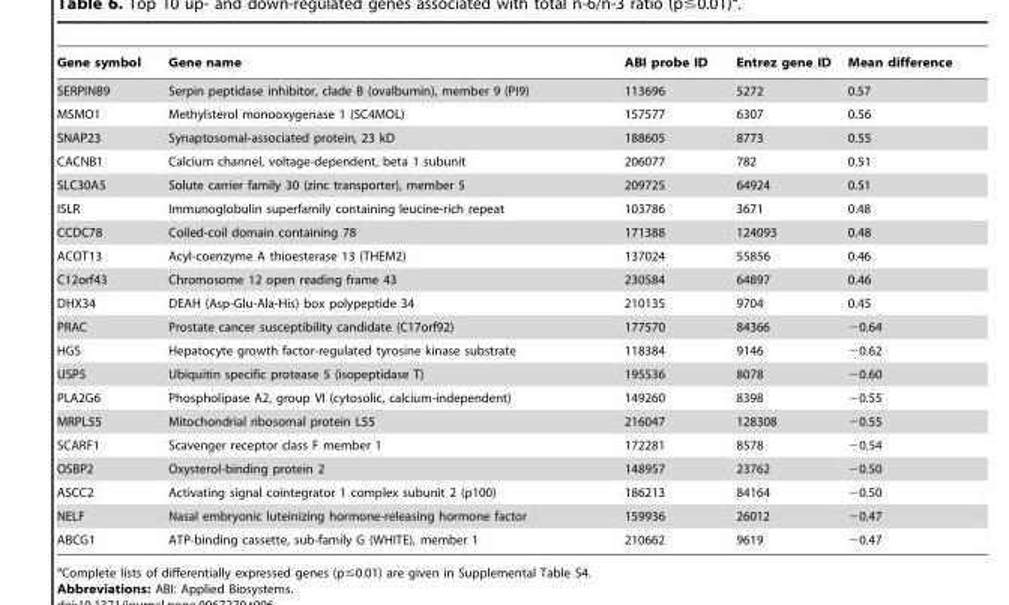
<table><thead><tr><td>Gene symbol</td><td>Gene name</td><td>ABI probe ID</td><td>Entrez gene ID</td><td>Mean difference</td></tr></thead><tbody><tr><td>SERPINB9</td><td>Serpin peptidase inhibitor, clade B (ovalbumin), member 9 (PI9)</td><td>113696</td><td>5272</td><td>0.57</td></tr><tr><td>MSMO1</td><td>Methylsterol monooxygenase 1 (SC4MOL)</td><td>157577</td><td>6307</td><td>0.56</td></tr><tr><td>SNAP23</td><td>Synaptosomal-associated protein, 23 kD</td><td>188605</td><td>8773</td><td>0.55</td></tr><tr><td>CACNB1</td><td>Calcium channel, voltage-dependent, beta 1 subunit</td><td>206077</td><td>782</td><td>0.51</td></tr><tr><td>SLC30A5</td><td>Solute carrier family 30 (zinc transporter), member 5</td><td>209725</td><td>64924</td><td>0.51</td></tr><tr><td>ISLR</td><td>Immunoglobulin superfamily containing leucine-rich repeat</td><td>103786</td><td>3671</td><td>0.48</td></tr><tr><td>CCDC78</td><td>Coiled-coil domain containing 78</td><td>171388</td><td>124093</td><td>0.48</td></tr><tr><td>ACOT13</td><td>Acyl-coenzyme A thioesterase 13 (THEM2)</td><td>137024</td><td>55856</td><td>0.46</td></tr><tr><td>C12orf43</td><td>Chromosome 12 open reading frame 43</td><td>230584</td><td>64897</td><td>0.46</td></tr><tr><td>DHX34</td><td>DEAH (Asp-Glu-Ala-His) box polypeptide 34</td><td>210135</td><td>9704</td><td>0.45</td></tr><tr><td>PRAC</td><td>Prostate cancer susceptibility candidate (C17orf92)</td><td>177570</td><td>84366</td><td>−0.64</td></tr><tr><td>HGS</td><td>Hepatocyte growth factor-regulated tyrosine kinase substrate</td><td>118384</td><td>9146</td><td>−0.62</td></tr><tr><td>USP5</td><td>Ubiquitin specific protease 5 (isopeptidase T)</td><td>195536</td><td>8078</td><td>−0.60</td></tr><tr><td>PLA2G6</td><td>Phospholipase A2, group VI (cytosolic, calcium-independent)</td><td>149260</td><td>8398</td><td>−0.55</td></tr><tr><td>MRPL55</td><td>Mitochondrial ribosomal protein L55</td><td>216047</td><td>128308</td><td>−0.55</td></tr><tr><td>SCARF1</td><td>Scavenger receptor class F member 1</td><td>172281</td><td>8578</td><td>−0.54</td></tr><tr><td>OSBP2</td><td>Oxysterol-binding protein 2</td><td>148957</td><td>23762</td><td>−0.50</td></tr><tr><td>ASCC2</td><td>Activating signal cointegrator 1 complex subunit 2 (p100)</td><td>186213</td><td>84164</td><td>−0.50</td></tr><tr><td>NELF</td><td>Nasal embryonic luteinizing hormone-releasing hormone factor</td><td>159936</td><td>26012</td><td>−0.47</td></tr><tr><td>ABCG1</td><td>ATP-binding cassette, sub-family G (WHITE), member 1</td><td>210662</td><td>9619</td><td>−0.47</td></tr></tbody></table>